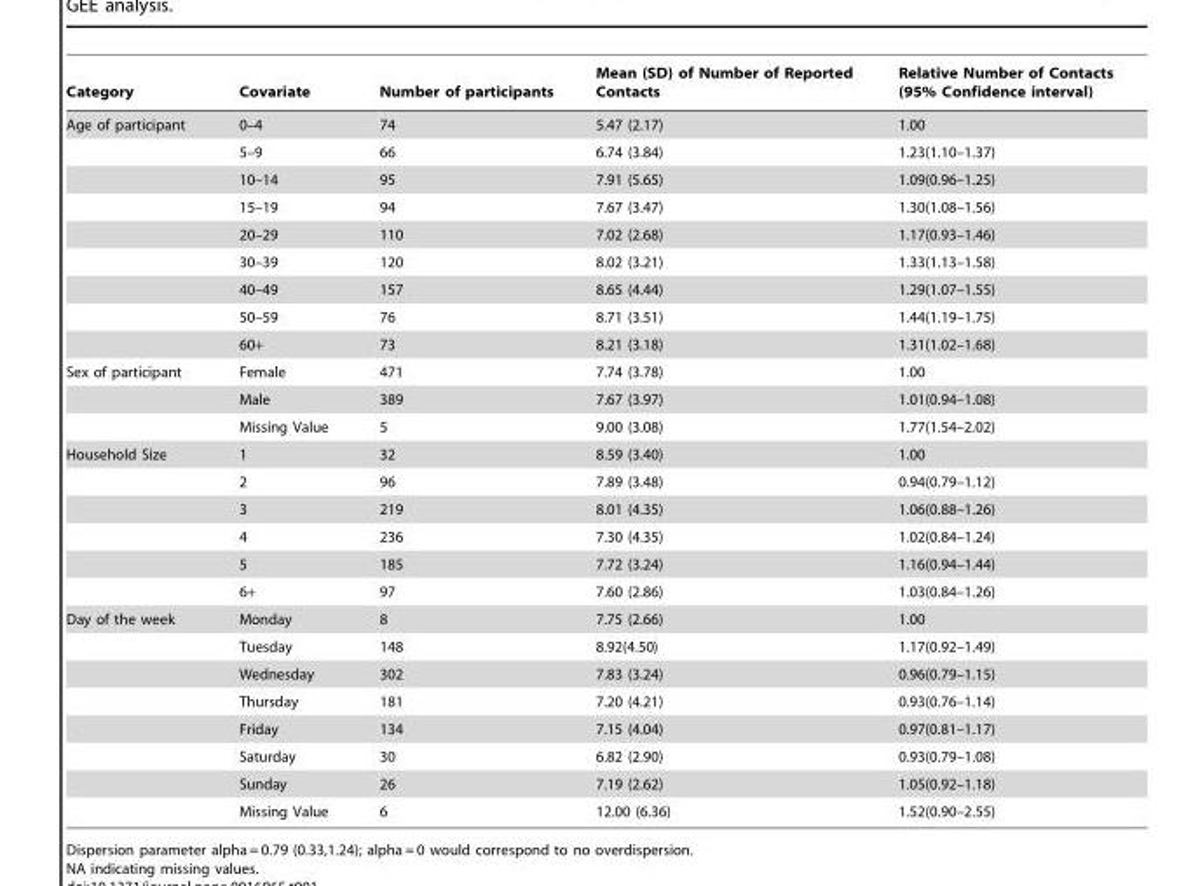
<table><thead><tr><td>Category</td><td>Covariate</td><td>Number of participants</td><td>Mean (SD) of Number of Reported Contacts</td><td>Relative Number of Contacts (95% Confidence interval)</td></tr></thead><tbody><tr><td rowspan="9">Age of participant</td><td>0–4</td><td>74</td><td>5.47 (2.17)</td><td>1.00</td></tr><tr><td>5–9</td><td>66</td><td>6.74 (3.84)</td><td>1.23(1.10–1.37)</td></tr><tr><td>10–14</td><td>95</td><td>7.91 (5.65)</td><td>1.09(0.96–1.25)</td></tr><tr><td>15–19</td><td>94</td><td>7.67 (3.47)</td><td>1.30(1.08–1.56)</td></tr><tr><td>20–29</td><td>110</td><td>7.02 (2.68)</td><td>1.17(0.93–1.46)</td></tr><tr><td>30–39</td><td>120</td><td>8.02 (3.21)</td><td>1.33(1.13–1.58)</td></tr><tr><td>40–49</td><td>157</td><td>8.65 (4.44)</td><td>1.29(1.07–1.55)</td></tr><tr><td>50–59</td><td>76</td><td>8.71 (3.51)</td><td>1.44(1.19–1.75)</td></tr><tr><td>60+</td><td>73</td><td>8.21 (3.18)</td><td>1.31(1.02–1.68)</td></tr><tr><td rowspan="3">Sex of participant</td><td>Female</td><td>471</td><td>7.74 (3.78)</td><td>1.00</td></tr><tr><td>Male</td><td>389</td><td>7.67 (3.97)</td><td>1.01(0.94–1.08)</td></tr><tr><td>Missing Value</td><td>5</td><td>9.00 (3.08)</td><td>1.77(1.54–2.02)</td></tr><tr><td rowspan="6">Household Size</td><td>1</td><td>32</td><td>8.59 (3.40)</td><td>1.00</td></tr><tr><td>2</td><td>96</td><td>7.89 (3.48)</td><td>0.94(0.79–1.12)</td></tr><tr><td>3</td><td>219</td><td>8.01 (4.35)</td><td>1.06(0.88–1.26)</td></tr><tr><td>4</td><td>236</td><td>7.30 (4.35)</td><td>1.02(0.84–1.24)</td></tr><tr><td>5</td><td>185</td><td>7.72 (3.24)</td><td>1.16(0.94–1.44)</td></tr><tr><td>6+</td><td>97</td><td>7.60 (2.86)</td><td>1.03(0.84–1.26)</td></tr><tr><td rowspan="8">Day of the week</td><td>Monday</td><td>8</td><td>7.75 (2.66)</td><td>1.00</td></tr><tr><td>Tuesday</td><td>148</td><td>8.92(4.50)</td><td>1.17(0.92–1.49)</td></tr><tr><td>Wednesday</td><td>302</td><td>7.83 (3.24)</td><td>0.96(0.79–1.15)</td></tr><tr><td>Thursday</td><td>181</td><td>7.20 (4.21)</td><td>0.93(0.76–1.14)</td></tr><tr><td>Friday</td><td>134</td><td>7.15 (4.04)</td><td>0.97(0.81–1.17)</td></tr><tr><td>Saturday</td><td>30</td><td>6.82 (2.90)</td><td>0.93(0.79–1.08)</td></tr><tr><td>Sunday</td><td>26</td><td>7.19 (2.62)</td><td>1.05(0.92–1.18)</td></tr><tr><td>Missing Value</td><td>6</td><td>12.00 (6.36)</td><td>1.52(0.90–2.55)</td></tr></tbody></table>